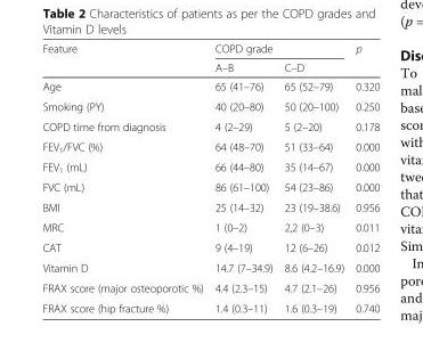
<table><thead><tr><td rowspan="2">Feature</td><td colspan="2">COPD grade</td><td rowspan="2">p</td></tr><tr><td>A–B</td><td>C–D</td></tr></thead><tbody><tr><td>Age</td><td>65 (41–76)</td><td>65 (52–79)</td><td>0.320</td></tr><tr><td>Smoking (PY)</td><td>40 (20–80)</td><td>50 (20–100)</td><td>0.250</td></tr><tr><td>COPD time from diagnosis</td><td>4 (2–29)</td><td>5 (2–20)</td><td>0.178</td></tr><tr><td>FEV<sub>1</sub>/FVC (%)</td><td>64 (48–70)</td><td>51 (33–64)</td><td>0.000</td></tr><tr><td>FEV<sub>1</sub> (mL)</td><td>66 (44–80)</td><td>35 (14–67)</td><td>0.000</td></tr><tr><td>FVC (mL)</td><td>86 (61–100)</td><td>54 (23–86)</td><td>0.000</td></tr><tr><td>BMI</td><td>25 (14–32)</td><td>23 (19–38.6)</td><td>0.956</td></tr><tr><td>MRC</td><td>1 (0–2)</td><td>2,2 (0–3)</td><td>0.011</td></tr><tr><td>CAT</td><td>9 (4–19)</td><td>12 (6–26)</td><td>0.012</td></tr><tr><td>Vitamin D</td><td>14.7 (7–34.9)</td><td>8.6 (4.2–16.9)</td><td>0.000</td></tr><tr><td>FRAX score (major osteoporotic %)</td><td>4.4 (2.3–15)</td><td>4.7 (2.1–26)</td><td>0.956</td></tr><tr><td>FRAX score (hip fracture %)</td><td>1.4 (0.3–11)</td><td>1.6 (0.3–19)</td><td>0.740</td></tr></tbody></table>